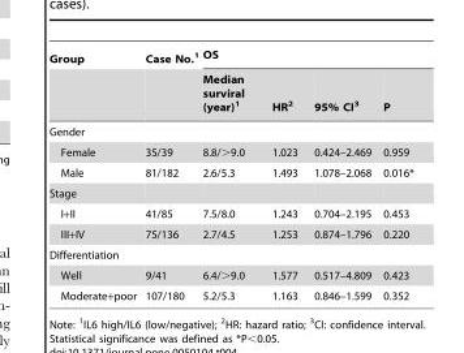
<table><thead><tr><td rowspan="2">Group</td><td rowspan="2">Case No.<sup>1</sup></td><td colspan="4">OS</td></tr><tr><td>Median surviral (year)<sup>1</sup></td><td>HR<sup>2</sup></td><td>95% CI<sup>3</sup></td><td>P</td></tr></thead><tbody><tr><td colspan="6">Gender</td></tr><tr><td>Female</td><td>35/39</td><td>8.8/&gt;9.0</td><td>1.023</td><td>0.424–2.469</td><td>0.959</td></tr><tr><td>Male</td><td>81/182</td><td>2.6/5.3</td><td>1.493</td><td>1.078–2.068</td><td>0.016*</td></tr><tr><td colspan="6">Stage</td></tr><tr><td>I+II</td><td>41/85</td><td>7.5/8.0</td><td>1.243</td><td>0.704–2.195</td><td>0.453</td></tr><tr><td>III+IV</td><td>75/136</td><td>2.7/4.5</td><td>1.253</td><td>0.874–1.796</td><td>0.220</td></tr><tr><td colspan="6">Differentiation</td></tr><tr><td>Well</td><td>9/41</td><td>6.4/&gt;9.0</td><td>1.577</td><td>0.517–4.809</td><td>0.423</td></tr><tr><td>Moderate+poor</td><td>107/180</td><td>5.2/5.3</td><td>1.163</td><td>0.846–1.599</td><td>0.352</td></tr></tbody></table>